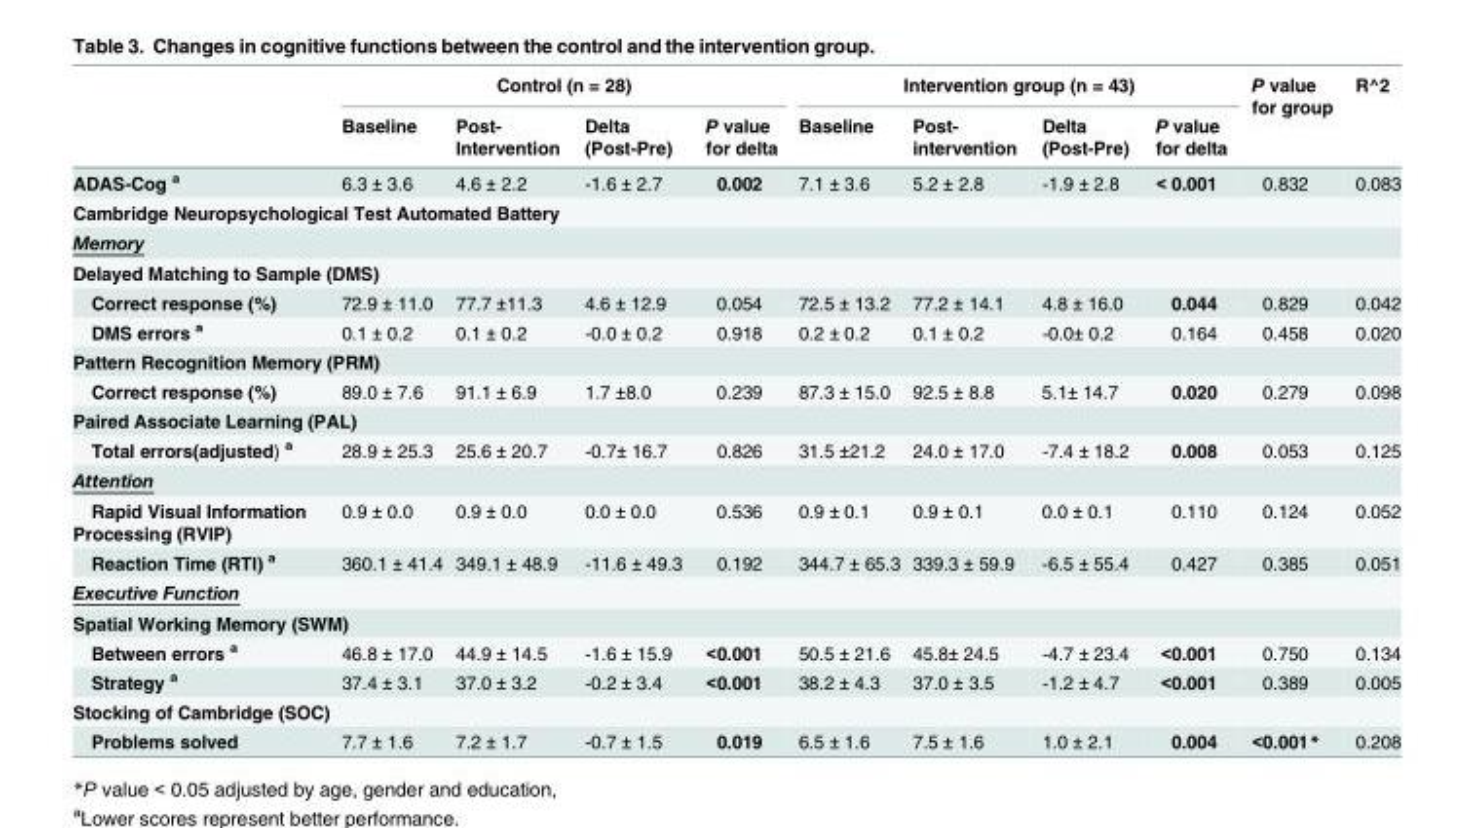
<table><thead><tr><td rowspan="2"></td><td colspan="4">Control (n = 28)</td><td colspan="4">Intervention group (n = 43)</td><td rowspan="2">P value for group</td><td rowspan="2">R^2</td></tr><tr><td>Baseline</td><td>Post- Intervention</td><td>Delta (Post-Pre)</td><td>P value for delta</td><td>Baseline</td><td>Post- intervention</td><td>Delta (Post-Pre)</td><td>P value for delta</td></tr></thead><tbody><tr><td>ADAS-Cog <sup>a</sup></td><td>6.3 ± 3.6</td><td>4.6 ± 2.2</td><td>-1.6 ± 2.7</td><td>0.002</td><td>7.1 ± 3.6</td><td>5.2 ± 2.8</td><td>-1.9 ± 2.8</td><td>&lt; 0.001</td><td>0.832</td><td>0.083</td></tr><tr><td colspan="11">Cambridge Neuropsychological Test Automated Battery</td></tr><tr><td colspan="11">Memory</td></tr><tr><td colspan="11">Delayed Matching to Sample (DMS)</td></tr><tr><td>Correct response (%)</td><td>72.9 ± 11.0</td><td>77.7 ±11.3</td><td>4.6 ± 12.9</td><td>0.054</td><td>72.5 ± 13.2</td><td>77.2 ± 14.1</td><td>4.8 ± 16.0</td><td>0.044</td><td>0.829</td><td>0.042</td></tr><tr><td>DMS errors <sup>a</sup></td><td>0.1 ± 0.2</td><td>0.1 ± 0.2</td><td>-0.0 ± 0.2</td><td>0.918</td><td>0.2 ± 0.2</td><td>0.1 ± 0.2</td><td>-0.0± 0.2</td><td>0.164</td><td>0.458</td><td>0.020</td></tr><tr><td colspan="11">Pattern Recognition Memory (PRM)</td></tr><tr><td>Correct response (%)</td><td>89.0 ± 7.6</td><td>91.1 ± 6.9</td><td>1.7 ±8.0</td><td>0.239</td><td>87.3 ± 15.0</td><td>92.5 ± 8.8</td><td>5.1± 14.7</td><td>0.020</td><td>0.279</td><td>0.098</td></tr><tr><td colspan="11">Paired Associate Learning (PAL)</td></tr><tr><td>Total errors(adjusted) <sup>a</sup></td><td>28.9 ± 25.3</td><td>25.6 ± 20.7</td><td>-0.7± 16.7</td><td>0.826</td><td>31.5 ±21.2</td><td>24.0 ± 17.0</td><td>-7.4 ± 18.2</td><td>0.008</td><td>0.053</td><td>0.125</td></tr><tr><td colspan="11">Attention</td></tr><tr><td>Rapid Visual Information Processing (RVIP)</td><td>0.9 ± 0.0</td><td>0.9 ± 0.0</td><td>0.0 ± 0.0</td><td>0.536</td><td>0.9 ± 0.1</td><td>0.9 ± 0.1</td><td>0.0 ± 0.1</td><td>0.110</td><td>0.124</td><td>0.052</td></tr><tr><td>Reaction Time (RTI) <sup>a</sup></td><td>360.1 ± 41.4</td><td>349.1 ± 48.9</td><td>-11.6 ± 49.3</td><td>0.192</td><td>344.7 ± 65.3</td><td>339.3 ± 59.9</td><td>-6.5 ± 55.4</td><td>0.427</td><td>0.385</td><td>0.051</td></tr><tr><td colspan="11">Executive Function</td></tr><tr><td colspan="11">Spatial Working Memory (SWM)</td></tr><tr><td>Between errors <sup>a</sup></td><td>46.8 ± 17.0</td><td>44.9 ± 14.5</td><td>-1.6 ± 15.9</td><td>&lt;0.001</td><td>50.5 ± 21.6</td><td>45.8± 24.5</td><td>-4.7 ± 23.4</td><td>&lt;0.001</td><td>0.750</td><td>0.134</td></tr><tr><td>Strategy <sup>a</sup></td><td>37.4 ± 3.1</td><td>37.0 ± 3.2</td><td>-0.2 ± 3.4</td><td>&lt;0.001</td><td>38.2 ± 4.3</td><td>37.0 ± 3.5</td><td>-1.2 ± 4.7</td><td>&lt;0.001</td><td>0.389</td><td>0.005</td></tr><tr><td colspan="11">Stocking of Cambridge (SOC)</td></tr><tr><td>Problems solved</td><td>7.7 ± 1.6</td><td>7.2 ± 1.7</td><td>-0.7 ± 1.5</td><td>0.019</td><td>6.5 ± 1.6</td><td>7.5 ± 1.6</td><td>1.0 ± 2.1</td><td>0.004</td><td>&lt;0.001*</td><td>0.208</td></tr></tbody></table>